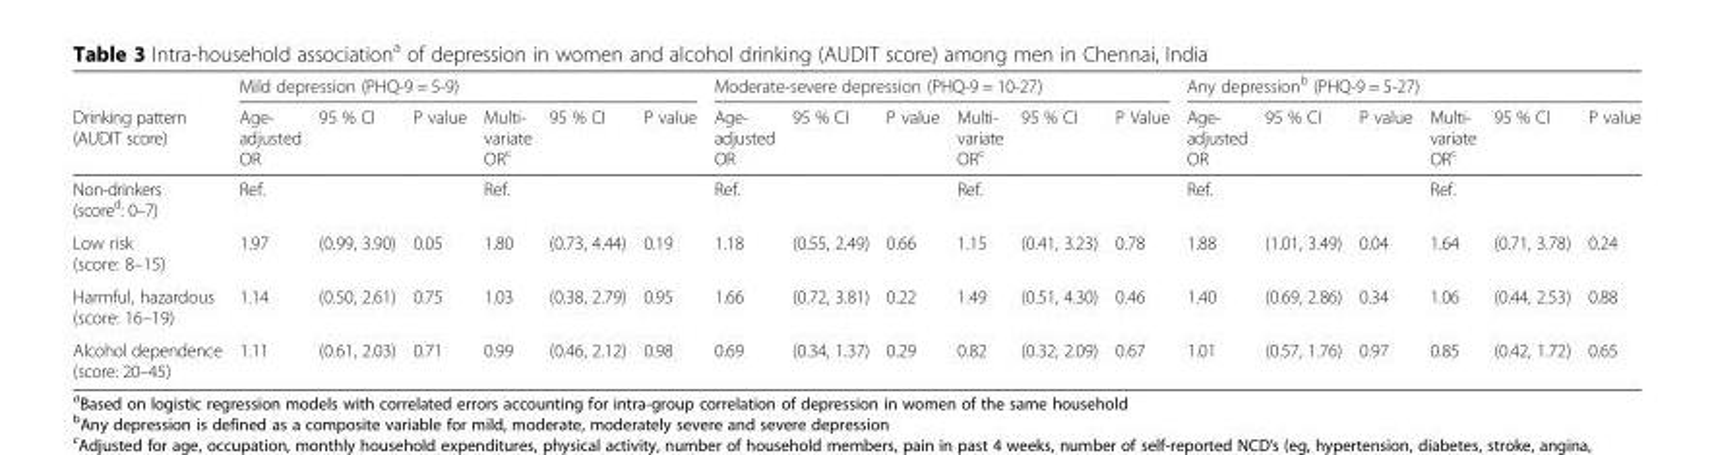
<table><thead><tr><td rowspan="2">Drinking pattern (AUDIT score)</td><td colspan="6">Mild depression (PHQ-9 = 5-9)</td><td colspan="6">Moderate-severe depression (PHQ-9 = 10-27)</td><td colspan="6">Any depression<sup>b</sup> (PHQ-9 = 5-27)</td></tr><tr><td>Age- adjusted OR</td><td>95 % CI</td><td>P value</td><td>Multi- variate OR<sup>c</sup></td><td>95 % CI</td><td>P value</td><td>Age- adjusted OR</td><td>95 % CI</td><td>P value</td><td>Multi- variate OR<sup>c</sup></td><td>95 % CI</td><td>P Value</td><td>Age- adjusted OR</td><td>95 % CI</td><td>P value</td><td>Multi- variate OR<sup>c</sup></td><td>95 % CI</td><td>P value</td></tr></thead><tbody><tr><td>Non-drinkers (score<sup>d</sup>: 0–7)</td><td>Ref.</td><td></td><td></td><td>Ref.</td><td></td><td></td><td>Ref.</td><td></td><td></td><td>Ref.</td><td></td><td></td><td>Ref.</td><td></td><td></td><td>Ref.</td><td></td><td></td></tr><tr><td>Low risk (score: 8–15)</td><td>1.97</td><td>(0.99, 3.90)</td><td>0.05</td><td>1.80</td><td>(0.73, 4.44)</td><td>0.19</td><td>1.18</td><td>(0.55, 2.49)</td><td>0.66</td><td>1.15</td><td>(0.41, 3.23)</td><td>0.78</td><td>1.88</td><td>(1.01, 3.49)</td><td>0.04</td><td>1.64</td><td>(0.71, 3.78)</td><td>0.24</td></tr><tr><td>Harmful, hazardous (score: 16–19)</td><td>1.14</td><td>(0.50, 2.61)</td><td>0.75</td><td>1.03</td><td>(0.38, 2.79)</td><td>0.95</td><td>1.66</td><td>(0.72, 3.81)</td><td>0.22</td><td>1.49</td><td>(0.51, 4.30)</td><td>0.46</td><td>1.40</td><td>(0.69, 2.86)</td><td>0.34</td><td>1.06</td><td>(0.44, 2.53)</td><td>0.88</td></tr><tr><td>Alcohol dependence (score: 20–45)</td><td>1.11</td><td>(0.61, 2.03)</td><td>0.71</td><td>0.99</td><td>(0.46, 2.12)</td><td>0.98</td><td>0.69</td><td>(0.34, 1.37)</td><td>0.29</td><td>0.82</td><td>(0.32, 2.09)</td><td>0.67</td><td>1.01</td><td>(0.57, 1.76)</td><td>0.97</td><td>0.85</td><td>(0.42, 1.72)</td><td>0.65</td></tr></tbody></table>